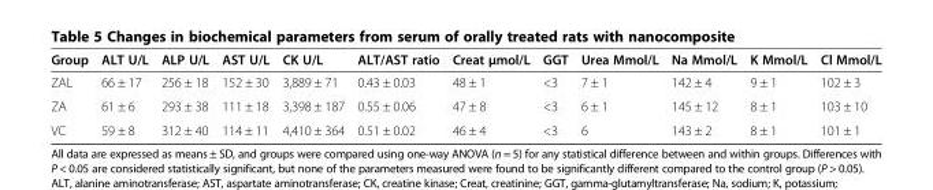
<table><thead><tr><td>Group</td><td>ALT U/L</td><td>ALP U/L</td><td>AST U/L</td><td>CK U/L</td><td>ALT/AST ratio</td><td>Creat μmol/L</td><td>GGT</td><td>Urea Mmol/L</td><td>Na Mmol/L</td><td>K Mmol/L</td><td>Cl Mmol/L</td></tr></thead><tbody><tr><td>ZAL</td><td>66 ± 17</td><td>256 ± 18</td><td>152 ± 30</td><td>3,889 ± 71</td><td>0.43 ± 0.03</td><td>48 ± 1</td><td>&lt;3</td><td>7 ± 1</td><td>142 ± 4</td><td>9 ± 1</td><td>102 ± 3</td></tr><tr><td>ZA</td><td>61 ± 6</td><td>293 ± 38</td><td>111 ± 18</td><td>3,398 ± 187</td><td>0.55 ± 0.06</td><td>47 ± 8</td><td>&lt;3</td><td>6 ± 1</td><td>145 ± 12</td><td>8 ± 1</td><td>103 ± 10</td></tr><tr><td>VC</td><td>59 ± 8</td><td>312 ± 40</td><td>114 ± 11</td><td>4,410 ± 364</td><td>0.51 ± 0.02</td><td>46 ± 4</td><td>&lt;3</td><td>6</td><td>143 ± 2</td><td>8 ± 1</td><td>101 ± 1</td></tr></tbody></table>